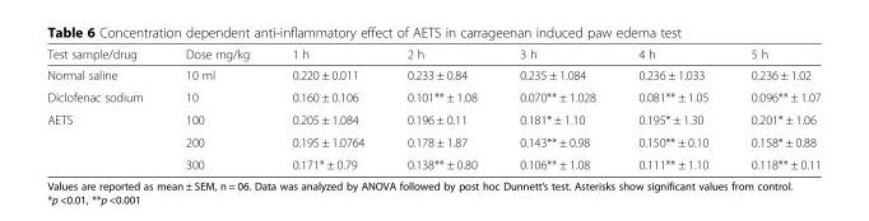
<table><thead><tr><td>Test sample/drug</td><td>Dose mg/kg</td><td>1 h</td><td>2 h</td><td>3 h</td><td>4 h</td><td>5 h</td></tr></thead><tbody><tr><td>Normal saline</td><td>10 ml</td><td>0.220 ± 0.011</td><td>0.233 ± 0.84</td><td>0.235 ± 1.084</td><td>0.236 ± 1.033</td><td>0.236 ± 1.02</td></tr><tr><td>Diclofenac sodium</td><td>10</td><td>0.160 ± 0.106</td><td>0.101** ± 1.08</td><td>0.070** ± 1.028</td><td>0.081** ± 1.05</td><td>0.096** ± 1.07</td></tr><tr><td rowspan="3">AETS</td><td>100</td><td>0.205 ± 1.084</td><td>0.196 ± 0.11</td><td>0.181* ± 1.10</td><td>0.195* ± 1.30</td><td>0.201* ± 1.06</td></tr><tr><td>200</td><td>0.195 ± 1.0764</td><td>0.178 ± 1.87</td><td>0.143** ± 0.98</td><td>0.150** ± 0.10</td><td>0.158* ± 0.88</td></tr><tr><td>300</td><td>0.171* ± 0.79</td><td>0.138** ± 0.80</td><td>0.106** ± 1.08</td><td>0.111** ± 1.10</td><td>0.118** ± 0.11</td></tr></tbody></table>